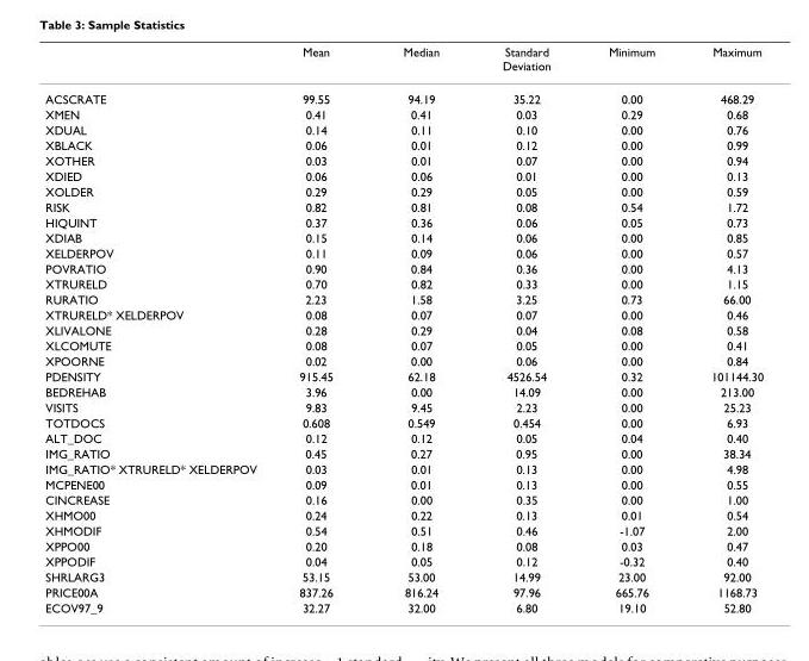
<table><thead><tr><td></td><td>Mean</td><td>Median</td><td>Standard Deviation</td><td>Minimum</td><td>Maximum</td></tr></thead><tbody><tr><td>ACSCRATE</td><td>99.55</td><td>94.19</td><td>35.22</td><td>0.00</td><td>468.29</td></tr><tr><td>XMEN</td><td>0.41</td><td>0.41</td><td>0.03</td><td>0.29</td><td>0.68</td></tr><tr><td>XDUAL</td><td>0.14</td><td>0.11</td><td>0.10</td><td>0.00</td><td>0.76</td></tr><tr><td>XBLACK</td><td>0.06</td><td>0.01</td><td>0.12</td><td>0.00</td><td>0.99</td></tr><tr><td>XOTHER</td><td>0.03</td><td>0.01</td><td>0.07</td><td>0.00</td><td>0.94</td></tr><tr><td>XDIED</td><td>0.06</td><td>0.06</td><td>0.01</td><td>0.00</td><td>0.13</td></tr><tr><td>XOLDER</td><td>0.29</td><td>0.29</td><td>0.05</td><td>0.00</td><td>0.59</td></tr><tr><td>RISK</td><td>0.82</td><td>0.81</td><td>0.08</td><td>0.54</td><td>1.72</td></tr><tr><td>HIQUINT</td><td>0.37</td><td>0.36</td><td>0.06</td><td>0.05</td><td>0.73</td></tr><tr><td>XDIAB</td><td>0.15</td><td>0.14</td><td>0.06</td><td>0.00</td><td>0.85</td></tr><tr><td>XELDERPOV</td><td>0.11</td><td>0.09</td><td>0.06</td><td>0.00</td><td>0.57</td></tr><tr><td>POVRATIO</td><td>0.90</td><td>0.84</td><td>0.36</td><td>0.00</td><td>4.13</td></tr><tr><td>XTRURELD</td><td>0.70</td><td>0.82</td><td>0.33</td><td>0.00</td><td>1.15</td></tr><tr><td>RURATIO</td><td>2.23</td><td>1.58</td><td>3.25</td><td>0.73</td><td>66.00</td></tr><tr><td>XTRURELD* XELDERPOV</td><td>0.08</td><td>0.07</td><td>0.07</td><td>0.00</td><td>0.46</td></tr><tr><td>XLIVALONE</td><td>0.28</td><td>0.29</td><td>0.04</td><td>0.08</td><td>0.58</td></tr><tr><td>XLCOMUTE</td><td>0.08</td><td>0.07</td><td>0.05</td><td>0.00</td><td>0.41</td></tr><tr><td>XPOORNE</td><td>0.02</td><td>0.00</td><td>0.06</td><td>0.00</td><td>0.84</td></tr><tr><td>PDENSITY</td><td>915.45</td><td>62.18</td><td>4526.54</td><td>0.32</td><td>101144.30</td></tr><tr><td>BEDREHAB</td><td>3.96</td><td>0.00</td><td>14.09</td><td>0.00</td><td>213.00</td></tr><tr><td>VISITS</td><td>9.83</td><td>9.45</td><td>2.23</td><td>0.00</td><td>25.23</td></tr><tr><td>TOTDOCS</td><td>0.608</td><td>0.549</td><td>0.454</td><td>0.00</td><td>6.93</td></tr><tr><td>ALT_DOC</td><td>0.12</td><td>0.12</td><td>0.05</td><td>0.04</td><td>0.40</td></tr><tr><td>IMG_RATIO</td><td>0.45</td><td>0.27</td><td>0.95</td><td>0.00</td><td>38.34</td></tr><tr><td>IMG_RATIO* XTRURELD* XELDERPOV</td><td>0.03</td><td>0.01</td><td>0.13</td><td>0.00</td><td>4.98</td></tr><tr><td>MCPENE00</td><td>0.09</td><td>0.01</td><td>0.13</td><td>0.00</td><td>0.55</td></tr><tr><td>CINCREASE</td><td>0.16</td><td>0.00</td><td>0.35</td><td>0.00</td><td>1.00</td></tr><tr><td>XHMO00</td><td>0.24</td><td>0.22</td><td>0.13</td><td>0.01</td><td>0.54</td></tr><tr><td>XHMODIF</td><td>0.54</td><td>0.51</td><td>0.46</td><td>-1.07</td><td>2.00</td></tr><tr><td>XPPO00</td><td>0.20</td><td>0.18</td><td>0.08</td><td>0.03</td><td>0.47</td></tr><tr><td>XPPODIF</td><td>0.04</td><td>0.05</td><td>0.12</td><td>-0.32</td><td>0.40</td></tr><tr><td>SHRLARG3</td><td>53.15</td><td>53.00</td><td>14.99</td><td>23.00</td><td>92.00</td></tr><tr><td>PRICE00A</td><td>837.26</td><td>816.24</td><td>97.96</td><td>665.76</td><td>1168.73</td></tr><tr><td>ECOV97_9</td><td>32.27</td><td>32.00</td><td>6.80</td><td>19.10</td><td>52.80</td></tr></tbody></table>